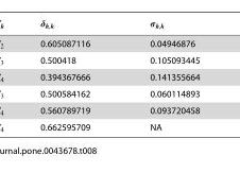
<table><tbody><tr><td>0.605087116</td><td>0.04946876</td></tr><tr><td>0.500418</td><td>0.105093445</td></tr><tr><td>0.394367666</td><td>0.141355664</td></tr><tr><td>0.500584162</td><td>0.060114893</td></tr><tr><td>0.560789719</td><td>0.093720458</td></tr><tr><td>0.662595709</td><td>NA</td></tr></tbody></table>